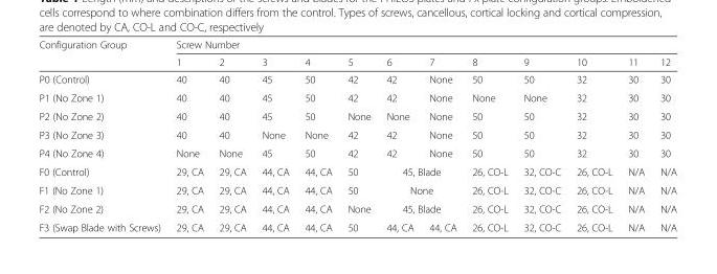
<table><thead><tr><td rowspan="2">Configuration Group</td><td colspan="12">Screw Number</td></tr><tr><td>1</td><td>2</td><td>3</td><td>4</td><td>5</td><td>6</td><td>7</td><td>8</td><td>9</td><td>10</td><td>11</td><td>12</td></tr></thead><tbody><tr><td>P0 (Control)</td><td>40</td><td>40</td><td>45</td><td>50</td><td>42</td><td>42</td><td>None</td><td>50</td><td>50</td><td>32</td><td>30</td><td>30</td></tr><tr><td>P1 (No Zone 1)</td><td>40</td><td>40</td><td>45</td><td>50</td><td>42</td><td>42</td><td>None</td><td>None</td><td>None</td><td>32</td><td>30</td><td>30</td></tr><tr><td>P2 (No Zone 2)</td><td>40</td><td>40</td><td>45</td><td>50</td><td>None</td><td>None</td><td>None</td><td>50</td><td>50</td><td>32</td><td>30</td><td>30</td></tr><tr><td>P3 (No Zone 3)</td><td>40</td><td>40</td><td>None</td><td>None</td><td>42</td><td>42</td><td>None</td><td>50</td><td>50</td><td>32</td><td>30</td><td>30</td></tr><tr><td>P4 (No Zone 4)</td><td>None</td><td>None</td><td>45</td><td>50</td><td>42</td><td>42</td><td>None</td><td>50</td><td>50</td><td>32</td><td>30</td><td>30</td></tr><tr><td>F0 (Control)</td><td>29, CA</td><td>29, CA</td><td>44, CA</td><td>44, CA</td><td>50</td><td colspan="2">45, Blade</td><td>26, CO-L</td><td>32, CO-C</td><td>26, CO-L</td><td>N/A</td><td>N/A</td></tr><tr><td>F1 (No Zone 1)</td><td>29, CA</td><td>29, CA</td><td>44, CA</td><td>44, CA</td><td>50</td><td colspan="2">None</td><td>26, CO-L</td><td>32, CO-C</td><td>26, CO-L</td><td>N/A</td><td>N/A</td></tr><tr><td>F2 (No Zone 2)</td><td>29, CA</td><td>29, CA</td><td>44, CA</td><td>44, CA</td><td>None</td><td colspan="2">45, Blade</td><td>26, CO-L</td><td>32, CO-C</td><td>26, CO-L</td><td>N/A</td><td>N/A</td></tr><tr><td>F3 (Swap Blade with Screws)</td><td>29, CA</td><td>29, CA</td><td>44, CA</td><td>44, CA</td><td>50</td><td>44, CA</td><td>44, CA</td><td>26, CO-L</td><td>32, CO-C</td><td>26, CO-L</td><td>N/A</td><td>N/A</td></tr></tbody></table>